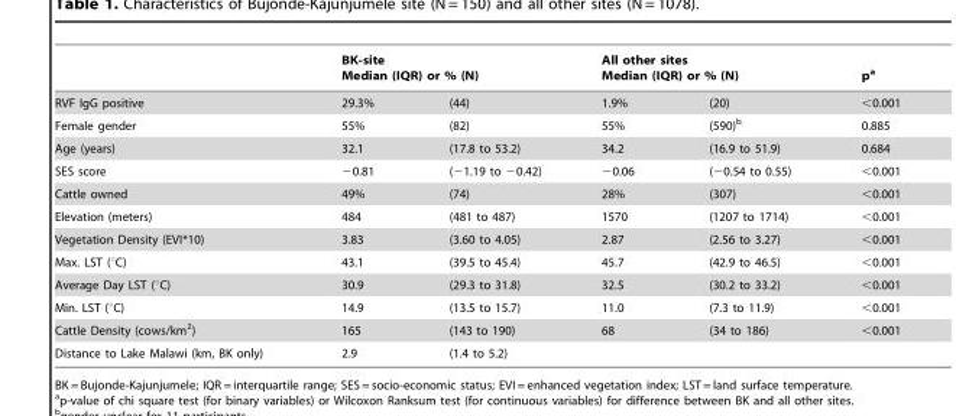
<table><thead><tr><td rowspan="2">RVF IgG positive</td><td colspan="2">BK-site Median (IQR) or % (N)</td><td colspan="2">All other sites Median (IQR) or % (N)</td><td rowspan="2">p<sup>a</sup> &lt;0.001</td></tr><tr><td>29.3%</td><td>(44)</td><td>1.9%</td><td>(20)</td></tr></thead><tbody><tr><td>Female gender</td><td>55%</td><td>(82)</td><td>55%</td><td>(590)<sup>b</sup></td><td>0.885</td></tr><tr><td>Age (years)</td><td>32.1</td><td>(17.8 to 53.2)</td><td>34.2</td><td>(16.9 to 51.9)</td><td>0.684</td></tr><tr><td>SES score</td><td>−0.81</td><td>(−1.19 to −0.42)</td><td>−0.06</td><td>(−0.54 to 0.55)</td><td>&lt;0.001</td></tr><tr><td>Cattle owned</td><td>49%</td><td>(74)</td><td>28%</td><td>(307)</td><td>&lt;0.001</td></tr><tr><td>Elevation (meters)</td><td>484</td><td>(481 to 487)</td><td>1570</td><td>(1207 to 1714)</td><td>&lt;0.001</td></tr><tr><td>Vegetation Density (EVI*10)</td><td>3.83</td><td>(3.60 to 4.05)</td><td>2.87</td><td>(2.56 to 3.27)</td><td>&lt;0.001</td></tr><tr><td>Max. LST (°C)</td><td>43.1</td><td>(39.5 to 45.4)</td><td>45.7</td><td>(42.9 to 46.5)</td><td>&lt;0.001</td></tr><tr><td>Average Day LST (°C)</td><td>30.9</td><td>(29.3 to 31.8)</td><td>32.5</td><td>(30.2 to 33.2)</td><td>&lt;0.001</td></tr><tr><td>Min. LST (°C)</td><td>14.9</td><td>(13.5 to 15.7)</td><td>11.0</td><td>(7.3 to 11.9)</td><td>&lt;0.001</td></tr><tr><td>Cattle Density (cows/km<sup>2</sup>)</td><td>165</td><td>(143 to 190)</td><td>68</td><td>(34 to 186)</td><td>&lt;0.001</td></tr><tr><td>Distance to Lake Malawi (km, BK only)</td><td>2.9</td><td>(1.4 to 5.2)</td><td></td><td></td><td></td></tr></tbody></table>